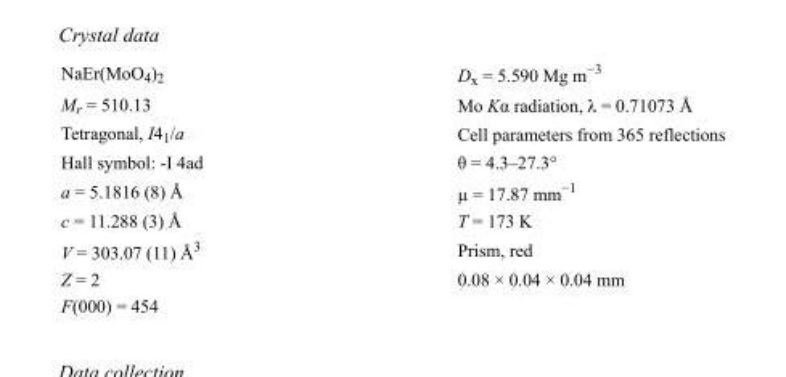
<table><tbody><tr><td>NaEr(MoO<sub>4</sub>)<sub>2</sub></td><td>D<sub>x</sub> = 5.590 Mg m<sup>−3</sup></td></tr><tr><td>M<sub>r</sub> = 510.13</td><td>Mo Kα radiation, λ = 0.71073 Å</td></tr><tr><td>Tetragonal, I4<sub>1</sub>/a</td><td>Cell parameters from 365 reflections</td></tr><tr><td>Hall symbol: -I 4ad</td><td>θ = 4.3–27.3°</td></tr><tr><td>a = 5.1816 (8) Å</td><td>µ = 17.87 mm<sup>−1</sup></td></tr><tr><td>c = 11.288 (3) Å</td><td>T = 173 K</td></tr><tr><td>V = 303.07 (11) Å<sup>3</sup></td><td>Prism, red</td></tr><tr><td>Z = 2</td><td>0.08 × 0.04 × 0.04 mm</td></tr><tr><td>F(000) = 454</td><td></td></tr></tbody></table>